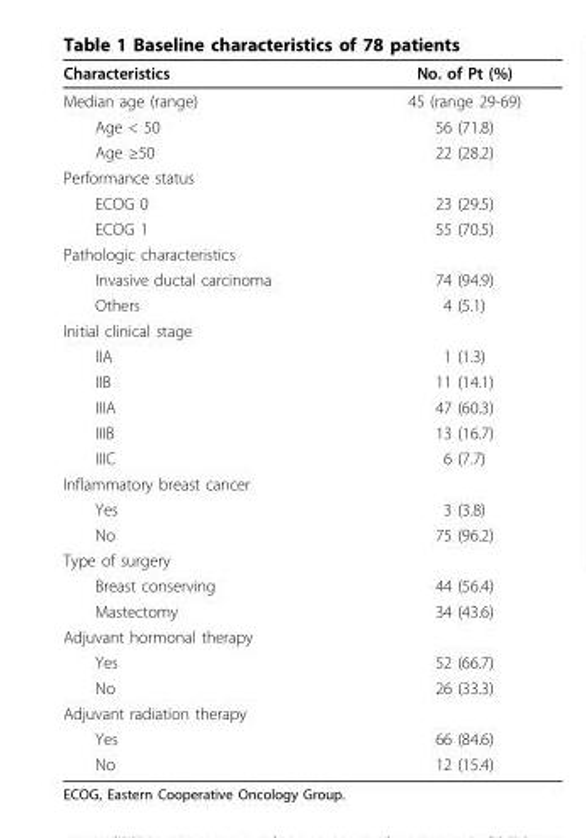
<table><thead><tr><td>Characteristics</td><td>No. of Pt (%)</td></tr></thead><tbody><tr><td>Median age (range)</td><td>45 (range 29-69)</td></tr><tr><td>Age &lt; 50</td><td>56 (71.8)</td></tr><tr><td>Age ≥50</td><td>22 (28.2)</td></tr><tr><td colspan="2">Performance status</td></tr><tr><td>ECOG 0</td><td>23 (29.5)</td></tr><tr><td>ECOG 1</td><td>55 (70.5)</td></tr><tr><td colspan="2">Pathologic characteristics</td></tr><tr><td>Invasive ductal carcinoma</td><td>74 (94.9)</td></tr><tr><td>Others</td><td>4 (5.1)</td></tr><tr><td colspan="2">Initial clinical stage</td></tr><tr><td>IIA</td><td>1 (1.3)</td></tr><tr><td>IIB</td><td>11 (14.1)</td></tr><tr><td>IIIA</td><td>47 (60.3)</td></tr><tr><td>IIIB</td><td>13 (16.7)</td></tr><tr><td>IIIC</td><td>6 (7.7)</td></tr><tr><td colspan="2">Inflammatory breast cancer</td></tr><tr><td>Yes</td><td>3 (3.8)</td></tr><tr><td>No</td><td>75 (96.2)</td></tr><tr><td colspan="2">Type of surgery</td></tr><tr><td>Breast conserving</td><td>44 (56.4)</td></tr><tr><td>Mastectomy</td><td>34 (43.6)</td></tr><tr><td colspan="2">Adjuvant hormonal therapy</td></tr><tr><td>Yes</td><td>52 (66.7)</td></tr><tr><td>No</td><td>26 (33.3)</td></tr><tr><td colspan="2">Adjuvant radiation therapy</td></tr><tr><td>Yes</td><td>66 (84.6)</td></tr><tr><td>No</td><td>12 (15.4)</td></tr></tbody></table>